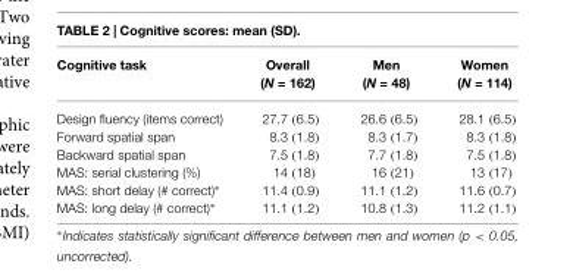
<table><thead><tr><td>Cognitive task</td><td>Overall (N = 162)</td><td>Men (N = 48)</td><td>Women (N = 114)</td></tr></thead><tbody><tr><td>Design fluency (items correct)</td><td>27.7 (6.5)</td><td>26.6 (6.5)</td><td>28.1 (6.5)</td></tr><tr><td>Forward spatial span</td><td>8.3 (1.8)</td><td>8.3 (1.7)</td><td>8.3 (1.8)</td></tr><tr><td>Backward spatial span</td><td>7.5 (1.8)</td><td>7.7 (1.8)</td><td>7.5 (1.8)</td></tr><tr><td>MAS: serial clustering (%)</td><td>14 (18)</td><td>16 (21)</td><td>13 (17)</td></tr><tr><td>MAS: short delay (# correct)∗</td><td>11.4 (0.9)</td><td>11.1 (1.2)</td><td>11.6 (0.7)</td></tr><tr><td>MAS: long delay (# correct)∗</td><td>11.1 (1.2)</td><td>10.8 (1.3)</td><td>11.2 (1.1)</td></tr></tbody></table>